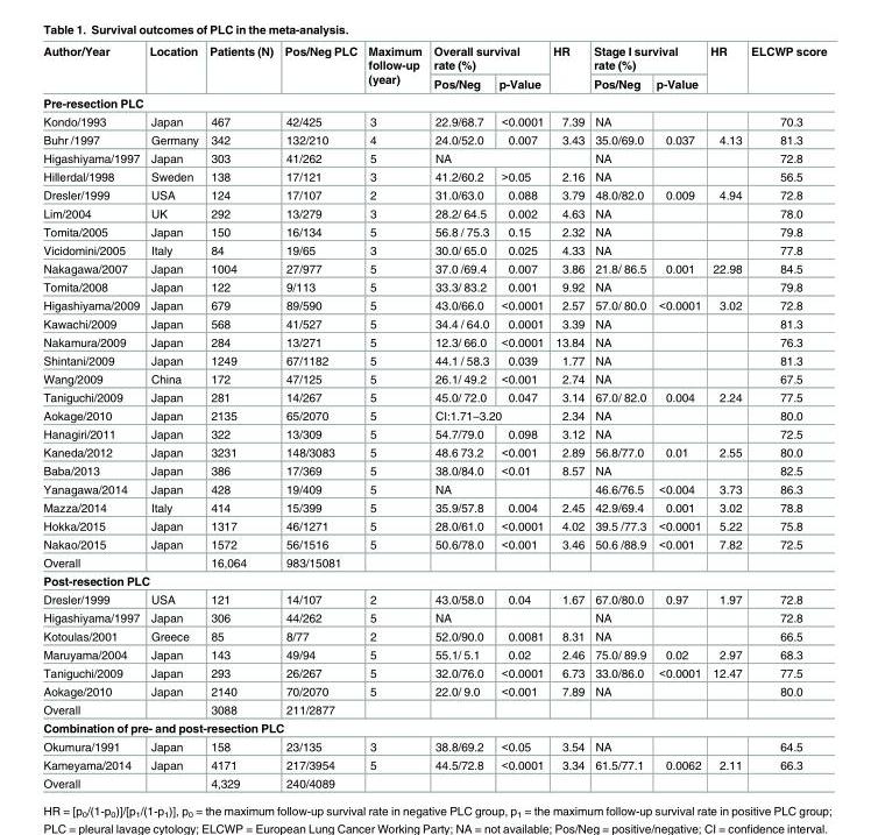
<table><thead><tr><td rowspan="2">Author/Year</td><td rowspan="2">Location</td><td rowspan="2">Patients (N)</td><td rowspan="2">Pos/Neg PLC</td><td rowspan="2">Maximum follow-up (year)</td><td colspan="2">Overall survival rate (%)</td><td rowspan="2">HR</td><td colspan="2">Stage I survival rate (%)</td><td rowspan="2">HR</td><td rowspan="2">ELCWP score</td></tr><tr><td>Pos/Neg</td><td>p-Value</td><td>Pos/Neg</td><td>p-Value</td></tr></thead><tbody><tr><td colspan="12">Pre-resection PLC</td></tr><tr><td>Kondo/1993</td><td>Japan</td><td>467</td><td>42/425</td><td>3</td><td>22.9/68.7</td><td>&lt;0.0001</td><td>7.39</td><td>NA</td><td></td><td></td><td>70.3</td></tr><tr><td>Buhr /1997</td><td>Germany</td><td>342</td><td>132/210</td><td>4</td><td>24.0/52.0</td><td>0.007</td><td>3.43</td><td>35.0/69.0</td><td>0.037</td><td>4.13</td><td>81.3</td></tr><tr><td>Higashiyama/1997</td><td>Japan</td><td>303</td><td>41/262</td><td>5</td><td colspan="2">NA</td><td></td><td>NA</td><td></td><td></td><td>72.8</td></tr><tr><td>Hillerdal/1998</td><td>Sweden</td><td>138</td><td>17/121</td><td>3</td><td>41.2/60.2</td><td>&gt;0.05</td><td>2.16</td><td>NA</td><td></td><td></td><td>56.5</td></tr><tr><td>Dresler/1999</td><td>USA</td><td>124</td><td>17/107</td><td>2</td><td>31.0/63.0</td><td>0.088</td><td>3.79</td><td>48.0/82.0</td><td>0.009</td><td>4.94</td><td>72.8</td></tr><tr><td>Lim/2004</td><td>UK</td><td>292</td><td>13/279</td><td>3</td><td>28.2/ 64.5</td><td>0.002</td><td>4.63</td><td>NA</td><td></td><td></td><td>78.0</td></tr><tr><td>Tomita/2005</td><td>Japan</td><td>150</td><td>16/134</td><td>5</td><td>56.8 / 75.3</td><td>0.15</td><td>2.32</td><td>NA</td><td></td><td></td><td>79.8</td></tr><tr><td>Vicidomini/2005</td><td>Italy</td><td>84</td><td>19/65</td><td>3</td><td>30.0/ 65.0</td><td>0.025</td><td>4.33</td><td>NA</td><td></td><td></td><td>77.8</td></tr><tr><td>Nakagawa/2007</td><td>Japan</td><td>1004</td><td>27/977</td><td>5</td><td>37.0 /69.4</td><td>0.007</td><td>3.86</td><td>21.8/ 86.5</td><td>0.001</td><td>22.98</td><td>84.5</td></tr><tr><td>Tomita/2008</td><td>Japan</td><td>122</td><td>9/113</td><td>5</td><td>33.3/ 83.2</td><td>0.001</td><td>9.92</td><td>NA</td><td></td><td></td><td>79.8</td></tr><tr><td>Higashiyama/2009</td><td>Japan</td><td>679</td><td>89/590</td><td>5</td><td>43.0/66.0</td><td>&lt;0.0001</td><td>2.57</td><td>57.0/ 80.0</td><td>&lt;0.0001</td><td>3.02</td><td>72.8</td></tr><tr><td>Kawachi/2009</td><td>Japan</td><td>568</td><td>41/527</td><td>5</td><td>34.4 / 64.0</td><td>0.0001</td><td>3.39</td><td>NA</td><td></td><td></td><td>81.3</td></tr><tr><td>Nakamura/2009</td><td>Japan</td><td>284</td><td>13/271</td><td>5</td><td>12.3/ 66.0</td><td>&lt;0.0001</td><td>13.84</td><td>NA</td><td></td><td></td><td>76.3</td></tr><tr><td>Shintani/2009</td><td>Japan</td><td>1249</td><td>67/1182</td><td>5</td><td>44.1 / 58.3</td><td>0.039</td><td>1.77</td><td>NA</td><td></td><td></td><td>81.3</td></tr><tr><td>Wang/2009</td><td>China</td><td>172</td><td>47/125</td><td>5</td><td>26.1/ 49.2</td><td>&lt;0.001</td><td>2.74</td><td>NA</td><td></td><td></td><td>67.5</td></tr><tr><td>Taniguchi/2009</td><td>Japan</td><td>281</td><td>14/267</td><td>5</td><td>45.0/ 72.0</td><td>0.047</td><td>3.14</td><td>67.0/ 82.0</td><td>0.004</td><td>2.24</td><td>77.5</td></tr><tr><td>Aokage/2010</td><td>Japan</td><td>2135</td><td>65/2070</td><td>5</td><td colspan="2">CI:1.71–3.20</td><td>2.34</td><td>NA</td><td></td><td></td><td>80.0</td></tr><tr><td>Hanagiri/2011</td><td>Japan</td><td>322</td><td>13/309</td><td>5</td><td>54.7/79.0</td><td>0.098</td><td>3.12</td><td>NA</td><td></td><td></td><td>72.5</td></tr><tr><td>Kaneda/2012</td><td>Japan</td><td>3231</td><td>148/3083</td><td>5</td><td>48.6 73.2</td><td>&lt;0.001</td><td>2.89</td><td>56.8/77.0</td><td>0.01</td><td>2.55</td><td>80.0</td></tr><tr><td>Baba/2013</td><td>Japan</td><td>386</td><td>17/369</td><td>5</td><td>38.0/84.0</td><td>&lt;0.01</td><td>8.57</td><td>NA</td><td></td><td></td><td>82.5</td></tr><tr><td>Yanagawa/2014</td><td>Japan</td><td>428</td><td>19/409</td><td>5</td><td>NA</td><td></td><td></td><td>46.6/76.5</td><td>&lt;0.004</td><td>3.73</td><td>86.3</td></tr><tr><td>Mazza/2014</td><td>Italy</td><td>414</td><td>15/399</td><td>5</td><td>35.9/57.8</td><td>0.004</td><td>2.45</td><td>42.9/69.4</td><td>0.001</td><td>3.02</td><td>78.8</td></tr><tr><td>Hokka/2015</td><td>Japan</td><td>1317</td><td>46/1271</td><td>5</td><td>28.0/61.0</td><td>&lt;0.0001</td><td>4.02</td><td>39.5 /77.3</td><td>&lt;0.0001</td><td>5.22</td><td>75.8</td></tr><tr><td>Nakao/2015</td><td>Japan</td><td>1572</td><td>56/1516</td><td>5</td><td>50.6/78.0</td><td>&lt;0.001</td><td>3.46</td><td>50.6 /88.9</td><td>&lt;0.001</td><td>7.82</td><td>72.5</td></tr><tr><td>Overall</td><td></td><td>16,064</td><td>983/15081</td><td></td><td></td><td></td><td></td><td></td><td></td><td></td><td></td></tr><tr><td colspan="12">Post-resection PLC</td></tr><tr><td>Dresler/1999</td><td>USA</td><td>121</td><td>14/107</td><td>2</td><td>43.0/58.0</td><td>0.04</td><td>1.67</td><td>67.0/80.0</td><td>0.97</td><td>1.97</td><td>72.8</td></tr><tr><td>Higashiyama/1997</td><td>Japan</td><td>306</td><td>44/262</td><td>5</td><td>NA</td><td></td><td></td><td>NA</td><td></td><td></td><td>72.8</td></tr><tr><td>Kotoulas/2001</td><td>Greece</td><td>85</td><td>8/77</td><td>2</td><td>52.0/90.0</td><td>0.0081</td><td>8.31</td><td>NA</td><td></td><td></td><td>66.5</td></tr><tr><td>Maruyama/2004</td><td>Japan</td><td>143</td><td>49/94</td><td>5</td><td>55.1/ 5.1</td><td>0.02</td><td>2.46</td><td>75.0/ 89.9</td><td>0.02</td><td>2.97</td><td>68.3</td></tr><tr><td>Taniguchi/2009</td><td>Japan</td><td>293</td><td>26/267</td><td>5</td><td>32.0/76.0</td><td>&lt;0.0001</td><td>6.73</td><td>33.0/86.0</td><td>&lt;0.0001</td><td>12.47</td><td>77.5</td></tr><tr><td>Aokage/2010</td><td>Japan</td><td>2140</td><td>70/2070</td><td>5</td><td>22.0/ 9.0</td><td>&lt;0.001</td><td>7.89</td><td>NA</td><td></td><td></td><td>80.0</td></tr><tr><td>Overall</td><td></td><td>3088</td><td>211/2877</td><td></td><td></td><td></td><td></td><td></td><td></td><td></td><td></td></tr><tr><td colspan="12">Combination of pre- and post-resection PLC</td></tr><tr><td>Okumura/1991</td><td>Japan</td><td>158</td><td>23/135</td><td>3</td><td>38.8/69.2</td><td>&lt;0.05</td><td>3.54</td><td>NA</td><td></td><td></td><td>64.5</td></tr><tr><td>Kameyama/2014</td><td>Japan</td><td>4171</td><td>217/3954</td><td>5</td><td>44.5/72.8</td><td>&lt;0.0001</td><td>3.34</td><td>61.5/77.1</td><td>0.0062</td><td>2.11</td><td>66.3</td></tr><tr><td>Overall</td><td></td><td>4,329</td><td>240/4089</td><td></td><td></td><td></td><td></td><td></td><td></td><td></td><td></td></tr></tbody></table>